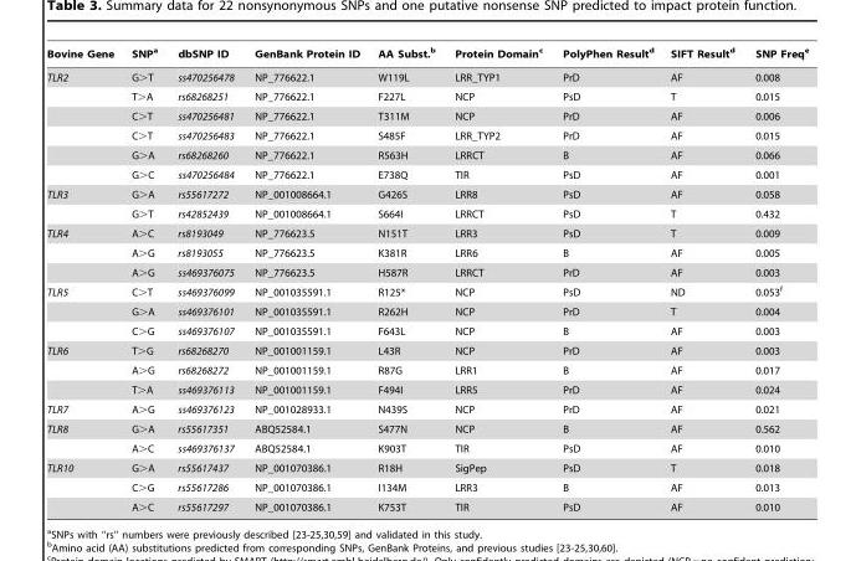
<table><thead><tr><td>Bovine Gene</td><td>SNP<sup>a</sup></td><td>dbSNP ID</td><td>GenBank Protein ID</td><td>AA Subst.<sup>b</sup></td><td>Protein Domain<sup>c</sup></td><td>PolyPhen Result<sup>d</sup></td><td>SIFT Result<sup>d</sup></td><td>SNP Freq<sup>e</sup></td></tr></thead><tbody><tr><td rowspan="6">TLR2</td><td>G&gt;T</td><td>ss470256478</td><td>NP_776622.1</td><td>W119L</td><td>LRR_TYP1</td><td>PrD</td><td>AF</td><td>0.008</td></tr><tr><td>T&gt;A</td><td>rs68268251</td><td>NP_776622.1</td><td>F227L</td><td>NCP</td><td>PsD</td><td>T</td><td>0.015</td></tr><tr><td>C&gt;T</td><td>ss470256481</td><td>NP_776622.1</td><td>T311M</td><td>NCP</td><td>PrD</td><td>AF</td><td>0.006</td></tr><tr><td>C&gt;T</td><td>ss470256483</td><td>NP_776622.1</td><td>S485F</td><td>LRR_TYP2</td><td>PrD</td><td>AF</td><td>0.015</td></tr><tr><td>G&gt;A</td><td>rs68268260</td><td>NP_776622.1</td><td>R563H</td><td>LRRCT</td><td>B</td><td>AF</td><td>0.066</td></tr><tr><td>G&gt;C</td><td>ss470256484</td><td>NP_776622.1</td><td>E738Q</td><td>TIR</td><td>PsD</td><td>AF</td><td>0.001</td></tr><tr><td rowspan="2">TLR3</td><td>G&gt;A</td><td>rs55617272</td><td>NP_001008664.1</td><td>G426S</td><td>LRR8</td><td>PsD</td><td>AF</td><td>0.058</td></tr><tr><td>G&gt;T</td><td>rs42852439</td><td>NP_001008664.1</td><td>S664I</td><td>LRRCT</td><td>PsD</td><td>T</td><td>0.432</td></tr><tr><td rowspan="3">TLR4</td><td>A&gt;C</td><td>rs8193049</td><td>NP_776623.5</td><td>N151T</td><td>LRR3</td><td>PsD</td><td>T</td><td>0.009</td></tr><tr><td>A&gt;G</td><td>rs8193055</td><td>NP_776623.5</td><td>K381R</td><td>LRR6</td><td>B</td><td>AF</td><td>0.005</td></tr><tr><td>A&gt;G</td><td>ss469376075</td><td>NP_776623.5</td><td>H587R</td><td>LRRCT</td><td>PrD</td><td>AF</td><td>0.003</td></tr><tr><td rowspan="3">TLR5</td><td>C&gt;T</td><td>ss469376099</td><td>NP_001035591.1</td><td>R125*</td><td>NCP</td><td>PsD</td><td>ND</td><td>0.053<sup>f</sup></td></tr><tr><td>G&gt;A</td><td>ss469376101</td><td>NP_001035591.1</td><td>R262H</td><td>NCP</td><td>PrD</td><td>T</td><td>0.004</td></tr><tr><td>C&gt;G</td><td>ss469376107</td><td>NP_001035591.1</td><td>F643L</td><td>NCP</td><td>B</td><td>AF</td><td>0.003</td></tr><tr><td rowspan="3">TLR6</td><td>T&gt;G</td><td>rs68268270</td><td>NP_001001159.1</td><td>L43R</td><td>NCP</td><td>PrD</td><td>AF</td><td>0.003</td></tr><tr><td>A&gt;G</td><td>rs68268272</td><td>NP_001001159.1</td><td>R87G</td><td>LRR1</td><td>B</td><td>AF</td><td>0.017</td></tr><tr><td>T&gt;A</td><td>ss469376113</td><td>NP_001001159.1</td><td>F494I</td><td>LRR5</td><td>PrD</td><td>AF</td><td>0.024</td></tr><tr><td>TLR7</td><td>A&gt;G</td><td>ss469376123</td><td>NP_001028933.1</td><td>N439S</td><td>NCP</td><td>PrD</td><td>AF</td><td>0.021</td></tr><tr><td rowspan="2">TLR8</td><td>G&gt;A</td><td>rs55617351</td><td>ABQ52584.1</td><td>S477N</td><td>NCP</td><td>B</td><td>AF</td><td>0.562</td></tr><tr><td>A&gt;C</td><td>ss469376137</td><td>ABQ52584.1</td><td>K903T</td><td>TIR</td><td>PsD</td><td>AF</td><td>0.010</td></tr><tr><td rowspan="3">TLR10</td><td>G&gt;A</td><td>rs55617437</td><td>NP_001070386.1</td><td>R18H</td><td>SigPep</td><td>PsD</td><td>T</td><td>0.018</td></tr><tr><td>C&gt;G</td><td>rs55617286</td><td>NP_001070386.1</td><td>I134M</td><td>LRR3</td><td>B</td><td>AF</td><td>0.013</td></tr><tr><td>A&gt;C</td><td>rs55617297</td><td>NP_001070386.1</td><td>K753T</td><td>TIR</td><td>PsD</td><td>AF</td><td>0.010</td></tr></tbody></table>